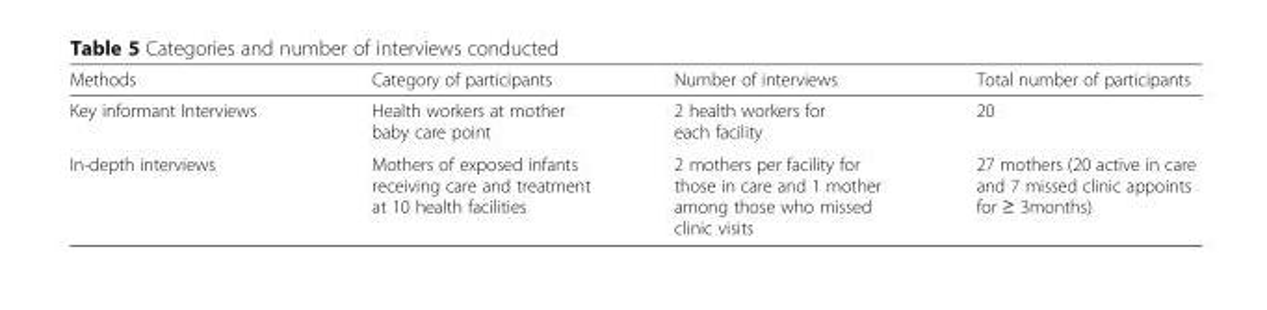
<table><thead><tr><td>Methods</td><td>Category of participants</td><td>Number of interviews</td><td>Total number of participants</td></tr></thead><tbody><tr><td>Key informant Interviews</td><td>Health workers at mother baby care point</td><td>2 health workers for each facility</td><td>20</td></tr><tr><td>In-depth interviews</td><td>Mothers of exposed infants receiving care and treatment at 10 health facilities</td><td>2 mothers per facility for those in care and 1 mother among those who missed clinic visits</td><td>27 mothers (20 active in care and 7 missed clinic appoints for ≥ 3months)</td></tr></tbody></table>